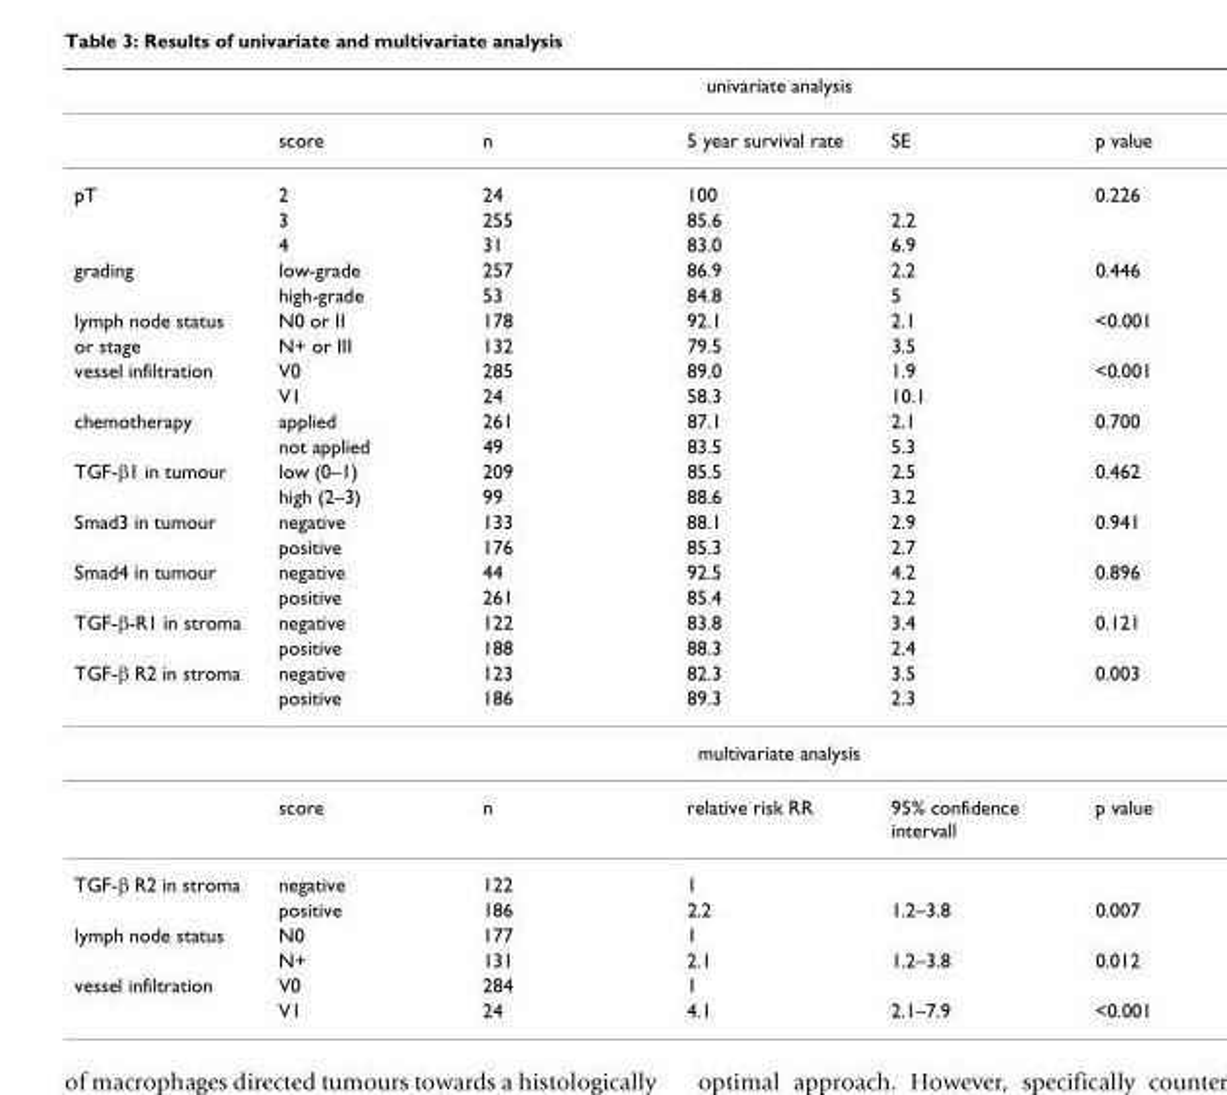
<table><thead><tr><td rowspan="2"></td><td colspan="5">univariate analysis</td></tr><tr><td>score</td><td>n</td><td>5 year survival rate</td><td>SE</td><td>p value</td></tr></thead><tbody><tr><td rowspan="3">pT</td><td>2</td><td>24</td><td>100</td><td></td><td>0.226</td></tr><tr><td>3</td><td>255</td><td>85.6</td><td>2.2</td><td></td></tr><tr><td>4</td><td>31</td><td>83.0</td><td>6.9</td><td></td></tr><tr><td rowspan="2">grading</td><td>low-grade</td><td>257</td><td>86.9</td><td>2.2</td><td>0.446</td></tr><tr><td>high-grade</td><td>53</td><td>84.8</td><td>5</td><td></td></tr><tr><td>lymph node status</td><td>N0 or II</td><td>178</td><td>92.1</td><td>2.1</td><td>&lt;0.001</td></tr><tr><td>or stage</td><td>N+ or III</td><td>132</td><td>79.5</td><td>3.5</td><td></td></tr><tr><td rowspan="2">vessel infiltration</td><td>V0</td><td>285</td><td>89.0</td><td>1.9</td><td>&lt;0.001</td></tr><tr><td>V1</td><td>24</td><td>58.3</td><td>10.1</td><td></td></tr><tr><td rowspan="2">chemotherapy</td><td>applied</td><td>261</td><td>87.1</td><td>2.1</td><td>0.700</td></tr><tr><td>not applied</td><td>49</td><td>83.5</td><td>5.3</td><td></td></tr><tr><td rowspan="2">TGF-β1 in tumour</td><td>low (0–1)</td><td>209</td><td>85.5</td><td>2.5</td><td>0.462</td></tr><tr><td>high (2–3)</td><td>99</td><td>88.6</td><td>3.2</td><td></td></tr><tr><td rowspan="2">Smad3 in tumour</td><td>negative</td><td>133</td><td>88.1</td><td>2.9</td><td>0.941</td></tr><tr><td>positive</td><td>176</td><td>85.3</td><td>2.7</td><td></td></tr><tr><td rowspan="2">Smad4 in tumour</td><td>negative</td><td>44</td><td>92.5</td><td>4.2</td><td>0.896</td></tr><tr><td>positive</td><td>261</td><td>85.4</td><td>2.2</td><td></td></tr><tr><td rowspan="2">TGF-β-R1 in stroma</td><td>negative</td><td>122</td><td>83.8</td><td>3.4</td><td>0.121</td></tr><tr><td>positive</td><td>188</td><td>88.3</td><td>2.4</td><td></td></tr><tr><td rowspan="4">TGF-β R2 in stroma</td><td>negative</td><td>123</td><td>82.3</td><td>3.5</td><td>0.003</td></tr><tr><td>positive</td><td>186</td><td>89.3</td><td>2.3</td><td></td></tr><tr><td colspan="5">multivariate analysis</td></tr><tr><td>score</td><td>n</td><td>relative risk RR</td><td>95% confidence intervall</td><td>p value</td></tr><tr><td rowspan="2">TGF-β R2 in stroma</td><td>negative</td><td>122</td><td>1</td><td></td><td></td></tr><tr><td>positive</td><td>186</td><td>2.2</td><td>1.2–3.8</td><td>0.007</td></tr><tr><td rowspan="2">lymph node status</td><td>N0</td><td>177</td><td>1</td><td></td><td></td></tr><tr><td>N+</td><td>131</td><td>2.1</td><td>1.2–3.8</td><td>0.012</td></tr><tr><td rowspan="2">vessel infiltration</td><td>V0</td><td>284</td><td>1</td><td></td><td></td></tr><tr><td>V1</td><td>24</td><td>4.1</td><td>2.1–7.9</td><td>&lt;0.001</td></tr></tbody></table>